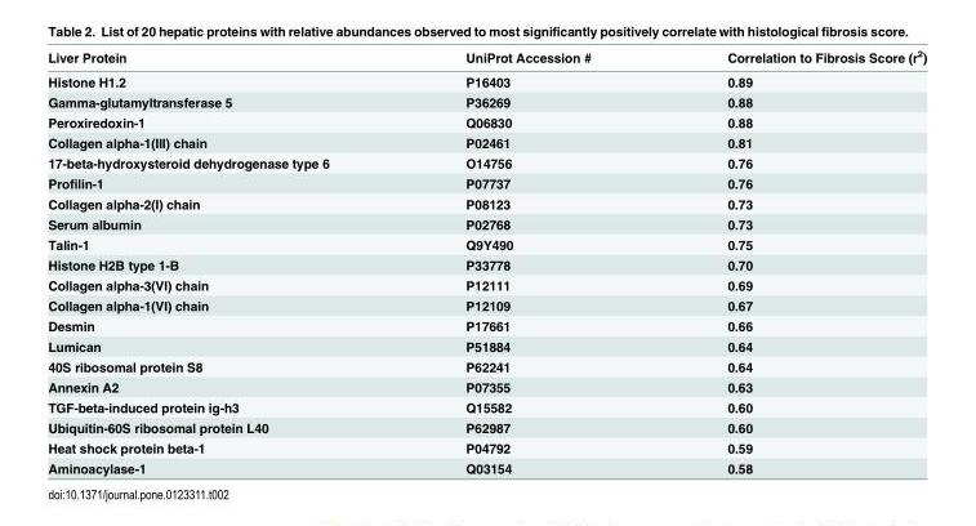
<table><thead><tr><td>Liver Protein</td><td>UniProt Accession #</td><td>Correlation to Fibrosis Score (r<sup>2</sup>)</td></tr></thead><tbody><tr><td>Histone H1.2</td><td>P16403</td><td>0.89</td></tr><tr><td>Gamma-glutamyltransferase 5</td><td>P36269</td><td>0.88</td></tr><tr><td>Peroxiredoxin-1</td><td>Q06830</td><td>0.88</td></tr><tr><td>Collagen alpha-1(III) chain</td><td>P02461</td><td>0.81</td></tr><tr><td>17-beta-hydroxysteroid dehydrogenase type 6</td><td>O14756</td><td>0.76</td></tr><tr><td>Profilin-1</td><td>P07737</td><td>0.76</td></tr><tr><td>Collagen alpha-2(I) chain</td><td>P08123</td><td>0.73</td></tr><tr><td>Serum albumin</td><td>P02768</td><td>0.73</td></tr><tr><td>Talin-1</td><td>Q9Y490</td><td>0.75</td></tr><tr><td>Histone H2B type 1-B</td><td>P33778</td><td>0.70</td></tr><tr><td>Collagen alpha-3(VI) chain</td><td>P12111</td><td>0.69</td></tr><tr><td>Collagen alpha-1(VI) chain</td><td>P12109</td><td>0.67</td></tr><tr><td>Desmin</td><td>P17661</td><td>0.66</td></tr><tr><td>Lumican</td><td>P51884</td><td>0.64</td></tr><tr><td>40S ribosomal protein S8</td><td>P62241</td><td>0.64</td></tr><tr><td>Annexin A2</td><td>P07355</td><td>0.63</td></tr><tr><td>TGF-beta-induced protein ig-h3</td><td>Q15582</td><td>0.60</td></tr><tr><td>Ubiquitin-60S ribosomal protein L40</td><td>P62987</td><td>0.60</td></tr><tr><td>Heat shock protein beta-1</td><td>P04792</td><td>0.59</td></tr><tr><td>Aminoacylase-1</td><td>Q03154</td><td>0.58</td></tr></tbody></table>